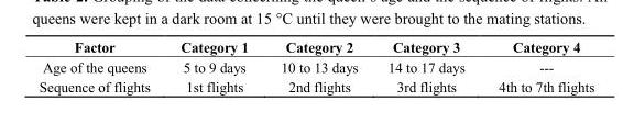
<table><thead><tr><td>Factor</td><td>Category 1</td><td>Category 2</td><td>Category 3</td><td>Category 4</td></tr></thead><tbody><tr><td>Age of the queens</td><td>5 to 9 days</td><td>10 to 13 days</td><td>14 to 17 days</td><td>---</td></tr><tr><td>Sequence of flights</td><td>1st flights</td><td>2nd flights</td><td>3rd flights</td><td>4th to 7th flights</td></tr></tbody></table>